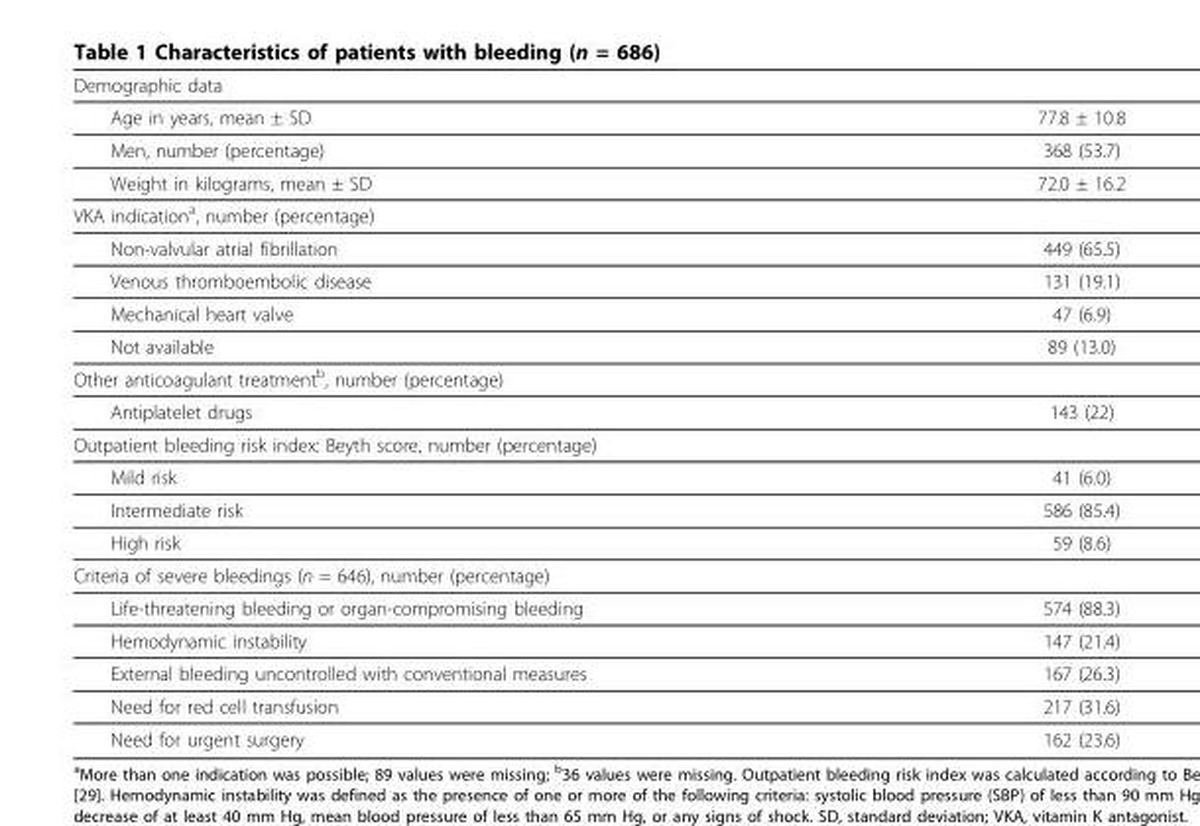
<table><thead><tr><td>Demographic data</td><td></td></tr></thead><tbody><tr><td>Age in years, mean ± SD</td><td>77.8 ± 10.8</td></tr><tr><td>Men, number (percentage)</td><td>368 (53.7)</td></tr><tr><td>Weight in kilograms, mean ± SD</td><td>72.0 ± 16.2</td></tr><tr><td colspan="2">VKA indication<sup>a</sup>, number (percentage)</td></tr><tr><td>Non-valvular atrial fibrillation</td><td>449 (65.5)</td></tr><tr><td>Venous thromboembolic disease</td><td>131 (19.1)</td></tr><tr><td>Mechanical heart valve</td><td>47 (6.9)</td></tr><tr><td>Not available</td><td>89 (13.0)</td></tr><tr><td colspan="2">Other anticoagulant treatment<sup>b</sup>, number (percentage)</td></tr><tr><td>Antiplatelet drugs</td><td>143 (22)</td></tr><tr><td colspan="2">Outpatient bleeding risk index: Beyth score, number (percentage)</td></tr><tr><td>Mild risk</td><td>41 (6.0)</td></tr><tr><td>Intermediate risk</td><td>586 (85.4)</td></tr><tr><td>High risk</td><td>59 (8.6)</td></tr><tr><td colspan="2">Criteria of severe bleedings (n = 646), number (percentage)</td></tr><tr><td>Life-threatening bleeding or organ-compromising bleeding</td><td>574 (88.3)</td></tr><tr><td>Hemodynamic instability</td><td>147 (21.4)</td></tr><tr><td>External bleeding uncontrolled with conventional measures</td><td>167 (26.3)</td></tr><tr><td>Need for red cell transfusion</td><td>217 (31.6)</td></tr><tr><td>Need for urgent surgery</td><td>162 (23.6)</td></tr></tbody></table>